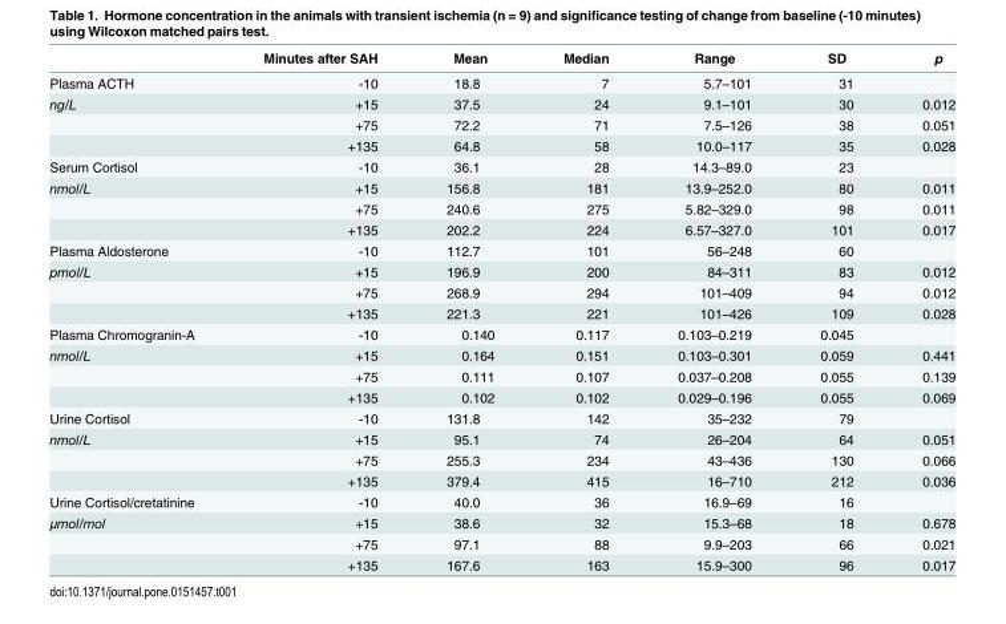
<table><thead><tr><td></td><td>Minutes after SAH</td><td>Mean</td><td>Median</td><td>Range</td><td>SD</td><td>p</td></tr></thead><tbody><tr><td>Plasma ACTH</td><td>-10</td><td>18.8</td><td>7</td><td>5.7–101</td><td>31</td><td></td></tr><tr><td rowspan="3">ng/L</td><td>+15</td><td>37.5</td><td>24</td><td>9.1–101</td><td>30</td><td>0.012</td></tr><tr><td>+75</td><td>72.2</td><td>71</td><td>7.5–126</td><td>38</td><td>0.051</td></tr><tr><td>+135</td><td>64.8</td><td>58</td><td>10.0–117</td><td>35</td><td>0.028</td></tr><tr><td>Serum Cortisol</td><td>-10</td><td>36.1</td><td>28</td><td>14.3–89.0</td><td>23</td><td></td></tr><tr><td rowspan="3">nmol/L</td><td>+15</td><td>156.8</td><td>181</td><td>13.9–252.0</td><td>80</td><td>0.011</td></tr><tr><td>+75</td><td>240.6</td><td>275</td><td>5.82–329.0</td><td>98</td><td>0.011</td></tr><tr><td>+135</td><td>202.2</td><td>224</td><td>6.57–327.0</td><td>101</td><td>0.017</td></tr><tr><td>Plasma Aldosterone</td><td>-10</td><td>112.7</td><td>101</td><td>56–248</td><td>60</td><td></td></tr><tr><td rowspan="3">pmol/L</td><td>+15</td><td>196.9</td><td>200</td><td>84–311</td><td>83</td><td>0.012</td></tr><tr><td>+75</td><td>268.9</td><td>294</td><td>101–409</td><td>94</td><td>0.012</td></tr><tr><td>+135</td><td>221.3</td><td>221</td><td>101–426</td><td>109</td><td>0.028</td></tr><tr><td>Plasma Chromogranin-A</td><td>-10</td><td>0.140</td><td>0.117</td><td>0.103–0.219</td><td>0.045</td><td></td></tr><tr><td rowspan="3">nmol/L</td><td>+15</td><td>0.164</td><td>0.151</td><td>0.103–0.301</td><td>0.059</td><td>0.441</td></tr><tr><td>+75</td><td>0.111</td><td>0.107</td><td>0.037–0.208</td><td>0.055</td><td>0.139</td></tr><tr><td>+135</td><td>0.102</td><td>0.102</td><td>0.029–0.196</td><td>0.055</td><td>0.069</td></tr><tr><td>Urine Cortisol</td><td>-10</td><td>131.8</td><td>142</td><td>35–232</td><td>79</td><td></td></tr><tr><td rowspan="3">nmol/L</td><td>+15</td><td>95.1</td><td>74</td><td>26–204</td><td>64</td><td>0.051</td></tr><tr><td>+75</td><td>255.3</td><td>234</td><td>43–436</td><td>130</td><td>0.066</td></tr><tr><td>+135</td><td>379.4</td><td>415</td><td>16–710</td><td>212</td><td>0.036</td></tr><tr><td>Urine Cortisol/cretatinine</td><td>-10</td><td>40.0</td><td>36</td><td>16.9–69</td><td>16</td><td></td></tr><tr><td rowspan="3">μmol/mol</td><td>+15</td><td>38.6</td><td>32</td><td>15.3–68</td><td>18</td><td>0.678</td></tr><tr><td>+75</td><td>97.1</td><td>88</td><td>9.9–203</td><td>66</td><td>0.021</td></tr><tr><td>+135</td><td>167.6</td><td>163</td><td>15.9–300</td><td>96</td><td>0.017</td></tr></tbody></table>